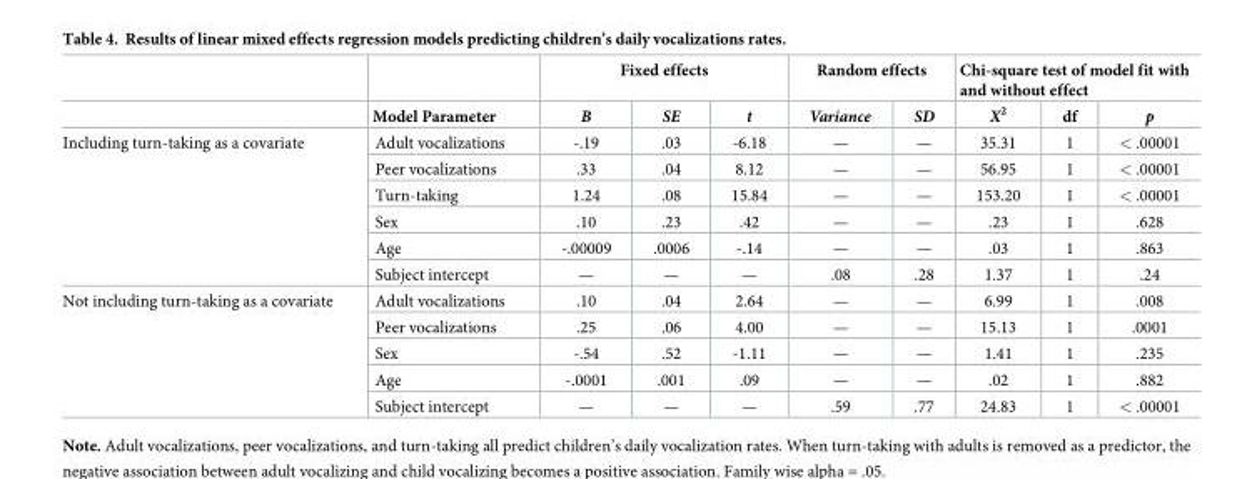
<table><thead><tr><td rowspan="2"></td><td rowspan="2">Model Parameter</td><td colspan="3">Fixed effects</td><td colspan="2">Random effects</td><td colspan="3">Chi-square test of model fit with and without effect</td></tr><tr><td>B</td><td>SE</td><td>t</td><td>Variance</td><td>SD</td><td>X<sup>2</sup></td><td>df</td><td>p</td></tr></thead><tbody><tr><td rowspan="6">Including turn-taking as a covariate</td><td>Adult vocalizations</td><td>-.19</td><td>.03</td><td>-6.18</td><td>—</td><td>—</td><td>35.31</td><td>1</td><td>&lt; .00001</td></tr><tr><td>Peer vocalizations</td><td>.33</td><td>.04</td><td>8.12</td><td>—</td><td>—</td><td>56.95</td><td>1</td><td>&lt; .00001</td></tr><tr><td>Turn-taking</td><td>1.24</td><td>.08</td><td>15.84</td><td>—</td><td>—</td><td>153.20</td><td>1</td><td>&lt; .00001</td></tr><tr><td>Sex</td><td>.10</td><td>.23</td><td>.42</td><td>—</td><td>—</td><td>.23</td><td>1</td><td>.628</td></tr><tr><td>Age</td><td>-.00009</td><td>.0006</td><td>-.14</td><td>—</td><td>—</td><td>.03</td><td>1</td><td>.863</td></tr><tr><td>Subject intercept</td><td>—</td><td>—</td><td>—</td><td>.08</td><td>.28</td><td>1.37</td><td>1</td><td>.24</td></tr><tr><td rowspan="5">Not including turn-taking as a covariate</td><td>Adult vocalizations</td><td>.10</td><td>.04</td><td>2.64</td><td>—</td><td>—</td><td>6.99</td><td>1</td><td>.008</td></tr><tr><td>Peer vocalizations</td><td>.25</td><td>.06</td><td>4.00</td><td>—</td><td>—</td><td>15.13</td><td>1</td><td>.0001</td></tr><tr><td>Sex</td><td>-.54</td><td>.52</td><td>-1.11</td><td>—</td><td>—</td><td>1.41</td><td>1</td><td>.235</td></tr><tr><td>Age</td><td>-.0001</td><td>.001</td><td>.09</td><td>—</td><td>—</td><td>.02</td><td>1</td><td>.882</td></tr><tr><td>Subject intercept</td><td>—</td><td>—</td><td>—</td><td>.59</td><td>.77</td><td>24.83</td><td>1</td><td>&lt; .00001</td></tr></tbody></table>